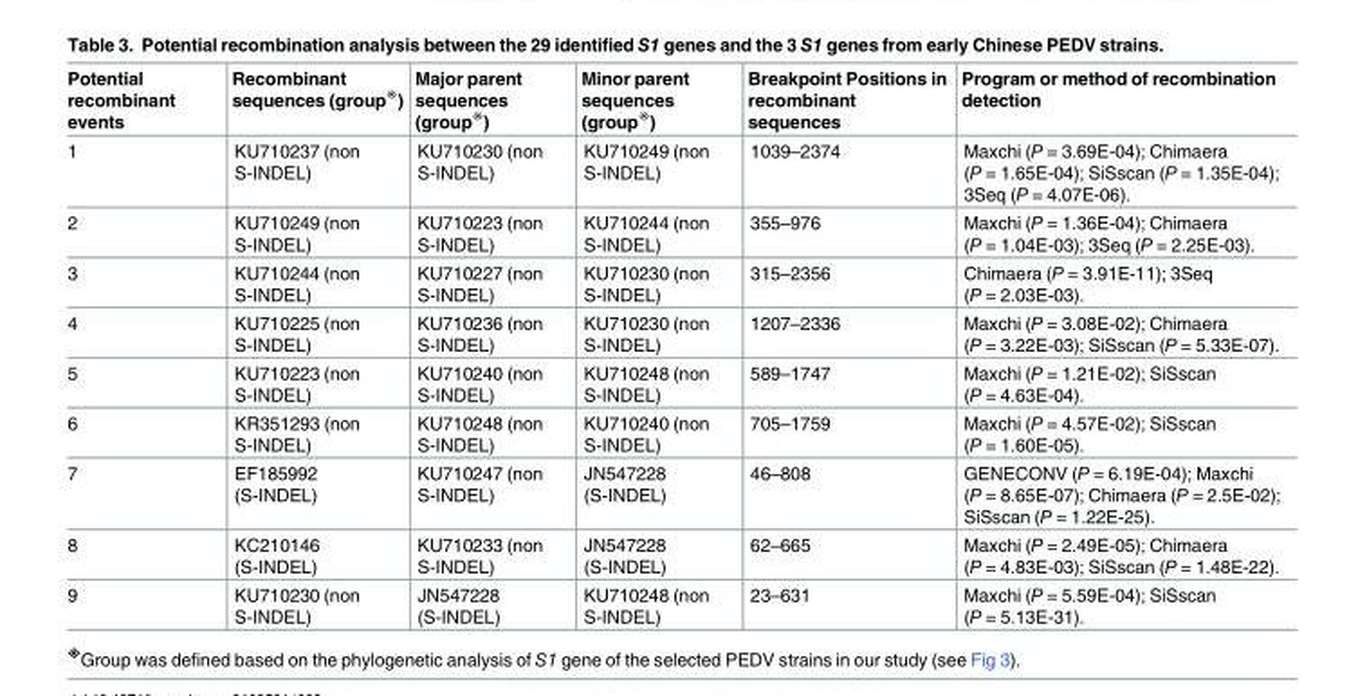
<table><thead><tr><td>Potential recombinant events</td><td>Recombinant sequences (group<sup>※</sup>)</td><td>Major parent sequences (group<sup>※</sup>)</td><td>Minor parent sequences (group<sup>※</sup>)</td><td>Breakpoint Positions in recombinant sequences</td><td>Program or method of recombination detection</td></tr></thead><tbody><tr><td>1</td><td>KU710237 (non S-INDEL)</td><td>KU710230 (non S-INDEL)</td><td>KU710249 (non S-INDEL)</td><td>1039–2374</td><td>Maxchi (P = 3.69E-04); Chimaera (P = 1.65E-04); SiSscan (P = 1.35E-04); 3Seq (P = 4.07E-06).</td></tr><tr><td>2</td><td>KU710249 (non S-INDEL)</td><td>KU710223 (non S-INDEL)</td><td>KU710244 (non S-INDEL)</td><td>355–976</td><td>Maxchi (P = 1.36E-04); Chimaera (P = 1.04E-03); 3Seq (P = 2.25E-03).</td></tr><tr><td>3</td><td>KU710244 (non S-INDEL)</td><td>KU710227 (non S-INDEL)</td><td>KU710230 (non S-INDEL)</td><td>315–2356</td><td>Chimaera (P = 3.91E-11); 3Seq (P = 2.03E-03).</td></tr><tr><td>4</td><td>KU710225 (non S-INDEL)</td><td>KU710236 (non S-INDEL)</td><td>KU710230 (non S-INDEL)</td><td>1207–2336</td><td>Maxchi (P = 3.08E-02); Chimaera (P = 3.22E-03); SiSscan (P = 5.33E-07).</td></tr><tr><td>5</td><td>KU710223 (non S-INDEL)</td><td>KU710240 (non S-INDEL)</td><td>KU710248 (non S-INDEL)</td><td>589–1747</td><td>Maxchi (P = 1.21E-02); SiSscan (P = 4.63E-04).</td></tr><tr><td>6</td><td>KR351293 (non S-INDEL)</td><td>KU710248 (non S-INDEL)</td><td>KU710240 (non S-INDEL)</td><td>705–1759</td><td>Maxchi (P = 4.57E-02); SiSscan (P = 1.60E-05).</td></tr><tr><td>7</td><td>EF185992 (S-INDEL)</td><td>KU710247 (non S-INDEL)</td><td>JN547228 (S-INDEL)</td><td>46–808</td><td>GENECONV (P = 6.19E-04); Maxchi (P = 8.65E-07); Chimaera (P = 2.5E-02); SiSscan (P = 1.22E-25).</td></tr><tr><td>8</td><td>KC210146 (S-INDEL)</td><td>KU710233 (non S-INDEL)</td><td>JN547228 (S-INDEL)</td><td>62–665</td><td>Maxchi (P = 2.49E-05); Chimaera (P = 4.83E-03); SiSscan (P = 1.48E-22).</td></tr><tr><td>9</td><td>KU710230 (non S-INDEL)</td><td>JN547228 (S-INDEL)</td><td>KU710248 (non S-INDEL)</td><td>23–631</td><td>Maxchi (P = 5.59E-04); SiSscan (P = 5.13E-31).</td></tr></tbody></table>